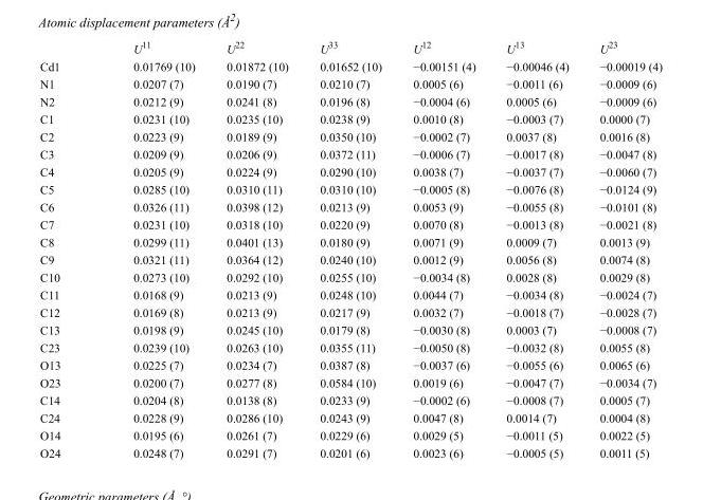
<table><thead><tr><td></td><td>U<sup>11</sup></td><td>U<sup>22</sup></td><td>U<sup>33</sup></td><td>U<sup>12</sup></td><td>U<sup>13</sup></td><td>U<sup>23</sup></td></tr></thead><tbody><tr><td>Cd1</td><td>0.01769 (10)</td><td>0.01872 (10)</td><td>0.01652 (10)</td><td>−0.00151 (4)</td><td>−0.00046 (4)</td><td>−0.00019 (4)</td></tr><tr><td>N1</td><td>0.0207 (7)</td><td>0.0190 (7)</td><td>0.0210 (7)</td><td>0.0005 (6)</td><td>−0.0011 (6)</td><td>−0.0009 (6)</td></tr><tr><td>N2</td><td>0.0212 (9)</td><td>0.0241 (8)</td><td>0.0196 (8)</td><td>−0.0004 (6)</td><td>0.0005 (6)</td><td>−0.0009 (6)</td></tr><tr><td>C1</td><td>0.0231 (10)</td><td>0.0235 (10)</td><td>0.0238 (9)</td><td>0.0010 (8)</td><td>−0.0003 (7)</td><td>0.0000 (7)</td></tr><tr><td>C2</td><td>0.0223 (9)</td><td>0.0189 (9)</td><td>0.0350 (10)</td><td>−0.0002 (7)</td><td>0.0037 (8)</td><td>0.0016 (8)</td></tr><tr><td>C3</td><td>0.0209 (9)</td><td>0.0206 (9)</td><td>0.0372 (11)</td><td>−0.0006 (7)</td><td>−0.0017 (8)</td><td>−0.0047 (8)</td></tr><tr><td>C4</td><td>0.0205 (9)</td><td>0.0224 (9)</td><td>0.0290 (10)</td><td>0.0038 (7)</td><td>−0.0037 (7)</td><td>−0.0060 (7)</td></tr><tr><td>C5</td><td>0.0285 (10)</td><td>0.0310 (11)</td><td>0.0310 (10)</td><td>−0.0005 (8)</td><td>−0.0076 (8)</td><td>−0.0124 (9)</td></tr><tr><td>C6</td><td>0.0326 (11)</td><td>0.0398 (12)</td><td>0.0213 (9)</td><td>0.0053 (9)</td><td>−0.0055 (8)</td><td>−0.0101 (8)</td></tr><tr><td>C7</td><td>0.0231 (10)</td><td>0.0318 (10)</td><td>0.0220 (9)</td><td>0.0070 (8)</td><td>−0.0013 (8)</td><td>−0.0021 (8)</td></tr><tr><td>C8</td><td>0.0299 (11)</td><td>0.0401 (13)</td><td>0.0180 (9)</td><td>0.0071 (9)</td><td>0.0009 (7)</td><td>0.0013 (9)</td></tr><tr><td>C9</td><td>0.0321 (11)</td><td>0.0364 (12)</td><td>0.0240 (10)</td><td>0.0012 (9)</td><td>0.0056 (8)</td><td>0.0074 (8)</td></tr><tr><td>C10</td><td>0.0273 (10)</td><td>0.0292 (10)</td><td>0.0255 (10)</td><td>−0.0034 (8)</td><td>0.0028 (8)</td><td>0.0029 (8)</td></tr><tr><td>C11</td><td>0.0168 (9)</td><td>0.0213 (9)</td><td>0.0248 (10)</td><td>0.0044 (7)</td><td>−0.0034 (8)</td><td>−0.0024 (7)</td></tr><tr><td>C12</td><td>0.0169 (8)</td><td>0.0213 (9)</td><td>0.0217 (9)</td><td>0.0032 (7)</td><td>−0.0018 (7)</td><td>−0.0028 (7)</td></tr><tr><td>C13</td><td>0.0198 (9)</td><td>0.0245 (10)</td><td>0.0179 (8)</td><td>−0.0030 (8)</td><td>0.0003 (7)</td><td>−0.0008 (7)</td></tr><tr><td>C23</td><td>0.0239 (10)</td><td>0.0263 (10)</td><td>0.0355 (11)</td><td>−0.0050 (8)</td><td>−0.0032 (8)</td><td>0.0055 (8)</td></tr><tr><td>O13</td><td>0.0225 (7)</td><td>0.0234 (7)</td><td>0.0387 (8)</td><td>−0.0037 (6)</td><td>−0.0055 (6)</td><td>0.0065 (6)</td></tr><tr><td>O23</td><td>0.0200 (7)</td><td>0.0277 (8)</td><td>0.0584 (10)</td><td>0.0019 (6)</td><td>−0.0047 (7)</td><td>−0.0034 (7)</td></tr><tr><td>C14</td><td>0.0204 (8)</td><td>0.0138 (8)</td><td>0.0233 (9)</td><td>−0.0002 (6)</td><td>−0.0008 (7)</td><td>0.0005 (7)</td></tr><tr><td>C24</td><td>0.0228 (9)</td><td>0.0286 (10)</td><td>0.0243 (9)</td><td>0.0047 (8)</td><td>0.0014 (7)</td><td>0.0004 (8)</td></tr><tr><td>O14</td><td>0.0195 (6)</td><td>0.0261 (7)</td><td>0.0229 (6)</td><td>0.0029 (5)</td><td>−0.0011 (5)</td><td>0.0022 (5)</td></tr><tr><td>O24</td><td>0.0248 (7)</td><td>0.0291 (7)</td><td>0.0201 (6)</td><td>0.0023 (6)</td><td>−0.0005 (5)</td><td>0.0011 (5)</td></tr></tbody></table>